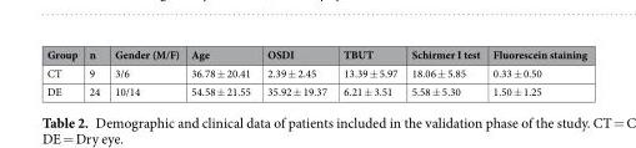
<table><thead><tr><td>Group</td><td>n</td><td>Gender (M/F)</td><td>Age</td><td>OSDI</td><td>TBUT</td><td>Schirmer I test</td><td>Fluorescein staining</td></tr></thead><tbody><tr><td>CT</td><td>9</td><td>3/6</td><td>36.78 ± 20.41</td><td>2.39 ± 2.45</td><td>13.39 ± 5.97</td><td>18.06 ± 5.85</td><td>0.33 ± 0.50</td></tr><tr><td>DE</td><td>24</td><td>10/14</td><td>54.58 ± 21.55</td><td>35.92 ± 19.37</td><td>6.21 ± 3.51</td><td>5.58 ± 5.30</td><td>1.50 ± 1.25</td></tr></tbody></table>